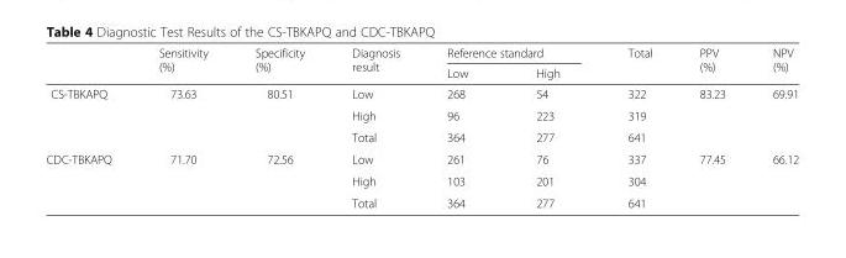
<table><thead><tr><td rowspan="2"></td><td rowspan="2">Sensitivity (%)</td><td rowspan="2">Specificity (%)</td><td rowspan="2">Diagnosis result</td><td colspan="2">Reference standard</td><td rowspan="2">Total</td><td rowspan="2">PPV (%)</td><td rowspan="2">NPV (%)</td></tr><tr><td>Low</td><td>High</td></tr></thead><tbody><tr><td rowspan="3">CS-TBKAPQ</td><td>73.63</td><td>80.51</td><td>Low</td><td>268</td><td>54</td><td>322</td><td>83.23</td><td>69.91</td></tr><tr><td></td><td></td><td>High</td><td>96</td><td>223</td><td>319</td><td></td><td></td></tr><tr><td></td><td></td><td>Total</td><td>364</td><td>277</td><td>641</td><td></td><td></td></tr><tr><td rowspan="3">CDC-TBKAPQ</td><td>71.70</td><td>72.56</td><td>Low</td><td>261</td><td>76</td><td>337</td><td>77.45</td><td>66.12</td></tr><tr><td></td><td></td><td>High</td><td>103</td><td>201</td><td>304</td><td></td><td></td></tr><tr><td></td><td></td><td>Total</td><td>364</td><td>277</td><td>641</td><td></td><td></td></tr></tbody></table>